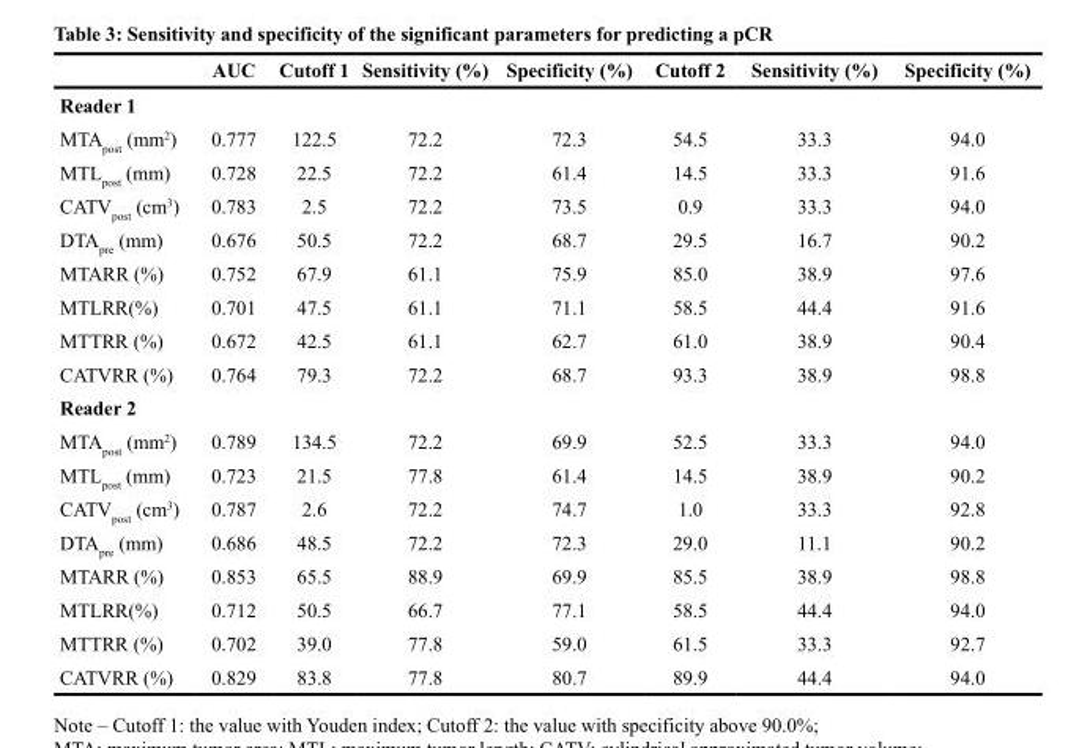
<table><thead><tr><td></td><td>AUC</td><td>Cutoff 1</td><td>Sensitivity (%)</td><td>Specificity (%)</td><td>Cutoff 2</td><td>Sensitivity (%)</td><td>Specificity (%)</td></tr></thead><tbody><tr><td colspan="8">Reader 1</td></tr><tr><td>MTA<sub>post</sub> (mm<sup>2</sup>)</td><td>0.777</td><td>122.5</td><td>72.2</td><td>72.3</td><td>54.5</td><td>33.3</td><td>94.0</td></tr><tr><td>MTL<sub>post</sub> (mm)</td><td>0.728</td><td>22.5</td><td>72.2</td><td>61.4</td><td>14.5</td><td>33.3</td><td>91.6</td></tr><tr><td>CATV<sub>post</sub> (cm<sup>3</sup>)</td><td>0.783</td><td>2.5</td><td>72.2</td><td>73.5</td><td>0.9</td><td>33.3</td><td>94.0</td></tr><tr><td>DTA<sub>pre</sub> (mm)</td><td>0.676</td><td>50.5</td><td>72.2</td><td>68.7</td><td>29.5</td><td>16.7</td><td>90.2</td></tr><tr><td>MTARR (%)</td><td>0.752</td><td>67.9</td><td>61.1</td><td>75.9</td><td>85.0</td><td>38.9</td><td>97.6</td></tr><tr><td>MTLRR(%)</td><td>0.701</td><td>47.5</td><td>61.1</td><td>71.1</td><td>58.5</td><td>44.4</td><td>91.6</td></tr><tr><td>MTTRR (%)</td><td>0.672</td><td>42.5</td><td>61.1</td><td>62.7</td><td>61.0</td><td>38.9</td><td>90.4</td></tr><tr><td>CATVRR (%)</td><td>0.764</td><td>79.3</td><td>72.2</td><td>68.7</td><td>93.3</td><td>38.9</td><td>98.8</td></tr><tr><td colspan="8">Reader 2</td></tr><tr><td>MTA<sub>post</sub> (mm<sup>2</sup>)</td><td>0.789</td><td>134.5</td><td>72.2</td><td>69.9</td><td>52.5</td><td>33.3</td><td>94.0</td></tr><tr><td>MTL<sub>post</sub> (mm)</td><td>0.723</td><td>21.5</td><td>77.8</td><td>61.4</td><td>14.5</td><td>38.9</td><td>90.2</td></tr><tr><td>CATV<sub>post</sub> (cm<sup>3</sup>)</td><td>0.787</td><td>2.6</td><td>72.2</td><td>74.7</td><td>1.0</td><td>33.3</td><td>92.8</td></tr><tr><td>DTA<sub>pre</sub> (mm)</td><td>0.686</td><td>48.5</td><td>72.2</td><td>72.3</td><td>29.0</td><td>11.1</td><td>90.2</td></tr><tr><td>MTARR (%)</td><td>0.853</td><td>65.5</td><td>88.9</td><td>69.9</td><td>85.5</td><td>38.9</td><td>98.8</td></tr><tr><td>MTLRR(%)</td><td>0.712</td><td>50.5</td><td>66.7</td><td>77.1</td><td>58.5</td><td>44.4</td><td>94.0</td></tr><tr><td>MTTRR (%)</td><td>0.702</td><td>39.0</td><td>77.8</td><td>59.0</td><td>61.5</td><td>33.3</td><td>92.7</td></tr><tr><td>CATVRR (%)</td><td>0.829</td><td>83.8</td><td>77.8</td><td>80.7</td><td>89.9</td><td>44.4</td><td>94.0</td></tr></tbody></table>